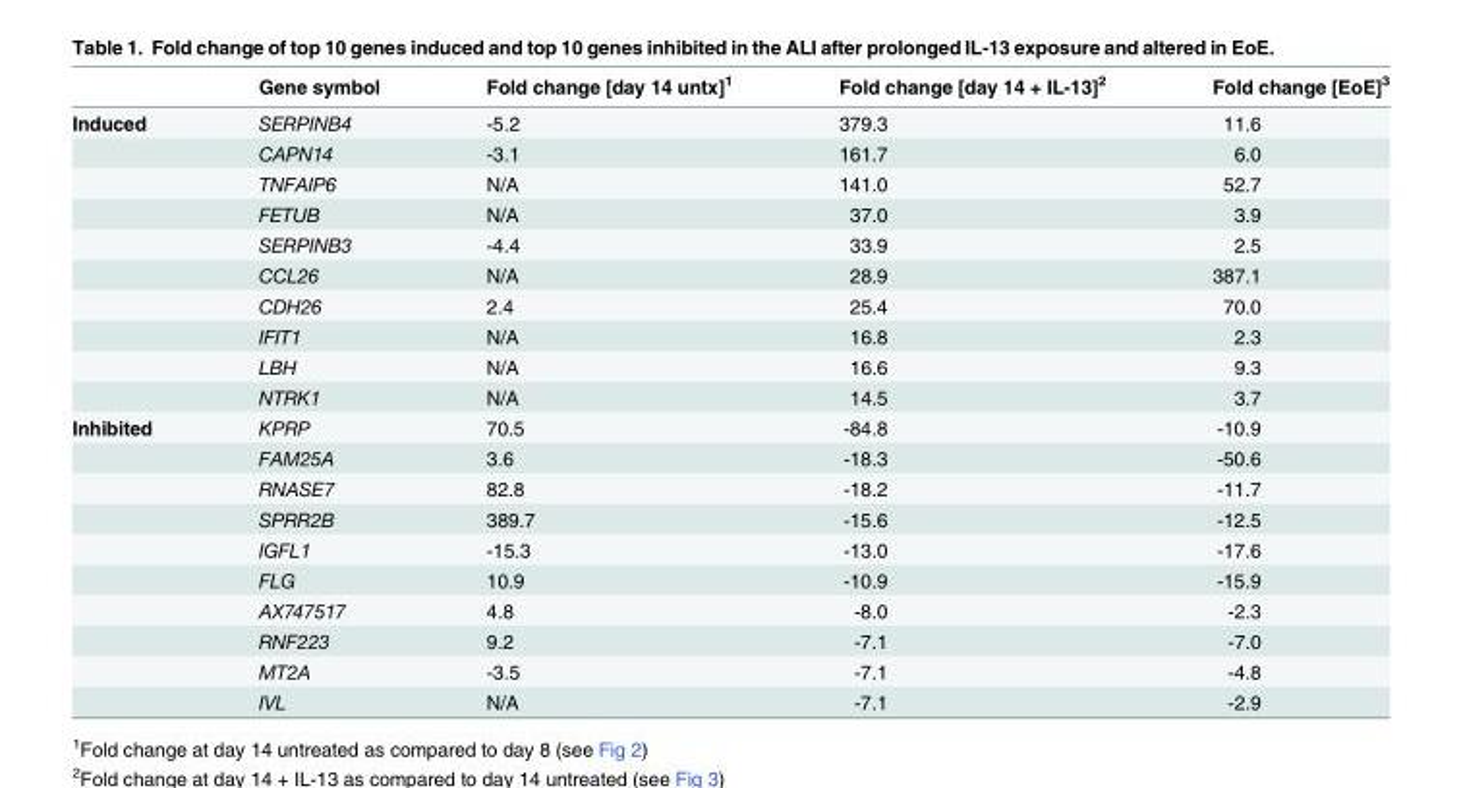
<table><thead><tr><td></td><td>Gene symbol</td><td>Fold change [day 14 untx]<sup>1</sup></td><td>Fold change [day 14 + IL-13]<sup>2</sup></td><td>Fold change [EoE]<sup>3</sup></td></tr></thead><tbody><tr><td rowspan="10">Induced</td><td>SERPINB4</td><td>-5.2</td><td>379.3</td><td>11.6</td></tr><tr><td>CAPN14</td><td>-3.1</td><td>161.7</td><td>6.0</td></tr><tr><td>TNFAIP6</td><td>N/A</td><td>141.0</td><td>52.7</td></tr><tr><td>FETUB</td><td>N/A</td><td>37.0</td><td>3.9</td></tr><tr><td>SERPINB3</td><td>-4.4</td><td>33.9</td><td>2.5</td></tr><tr><td>CCL26</td><td>N/A</td><td>28.9</td><td>387.1</td></tr><tr><td>CDH26</td><td>2.4</td><td>25.4</td><td>70.0</td></tr><tr><td>IFIT1</td><td>N/A</td><td>16.8</td><td>2.3</td></tr><tr><td>LBH</td><td>N/A</td><td>16.6</td><td>9.3</td></tr><tr><td>NTRK1</td><td>N/A</td><td>14.5</td><td>3.7</td></tr><tr><td rowspan="10">Inhibited</td><td>KPRP</td><td>70.5</td><td>-84.8</td><td>-10.9</td></tr><tr><td>FAM25A</td><td>3.6</td><td>-18.3</td><td>-50.6</td></tr><tr><td>RNASE7</td><td>82.8</td><td>-18.2</td><td>-11.7</td></tr><tr><td>SPRR2B</td><td>389.7</td><td>-15.6</td><td>-12.5</td></tr><tr><td>IGFL1</td><td>-15.3</td><td>-13.0</td><td>-17.6</td></tr><tr><td>FLG</td><td>10.9</td><td>-10.9</td><td>-15.9</td></tr><tr><td>AX747517</td><td>4.8</td><td>-8.0</td><td>-2.3</td></tr><tr><td>RNF223</td><td>9.2</td><td>-7.1</td><td>-7.0</td></tr><tr><td>MT2A</td><td>-3.5</td><td>-7.1</td><td>-4.8</td></tr><tr><td>IVL</td><td>N/A</td><td>-7.1</td><td>-2.9</td></tr></tbody></table>